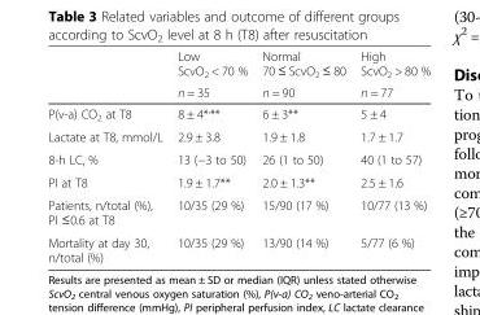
<table><thead><tr><td rowspan="2"></td><td rowspan="2">Low ScvO<sub>2</sub> &lt; 70 % n = 35</td><td rowspan="2">Normal 70 ≤ ScvO<sub>2</sub> ≤ 80 n = 90</td><td rowspan="2">High ScvO<sub>2</sub> &gt; 80 % n = 77</td></tr><tr></tr></thead><tbody><tr><td>P(v-a) CO<sub>2</sub> at T8</td><td>8 ± 4*<sup>,</sup>**</td><td>6 ± 3**</td><td>5 ± 4</td></tr><tr><td>Lactate at T8, mmol/L</td><td>2.9 ± 3.8</td><td>1.9 ± 1.8</td><td>1.7 ± 1.7</td></tr><tr><td>8-h LC, %</td><td>13 (−3 to 50)</td><td>26 (1 to 50)</td><td>40 (1 to 57)</td></tr><tr><td>PI at T8</td><td>1.9 ± 1.7**</td><td>2.0 ± 1.3**</td><td>2.5 ± 1.6</td></tr><tr><td>Patients, n/total (%), PI ≤0.6 at T8</td><td>10/35 (29 %)</td><td>15/90 (17 %)</td><td>10/77 (13 %)</td></tr><tr><td>Mortality at day 30, n/total (%)</td><td>10/35 (29 %)</td><td>13/90 (14 %)</td><td>5/77 (6 %)</td></tr></tbody></table>